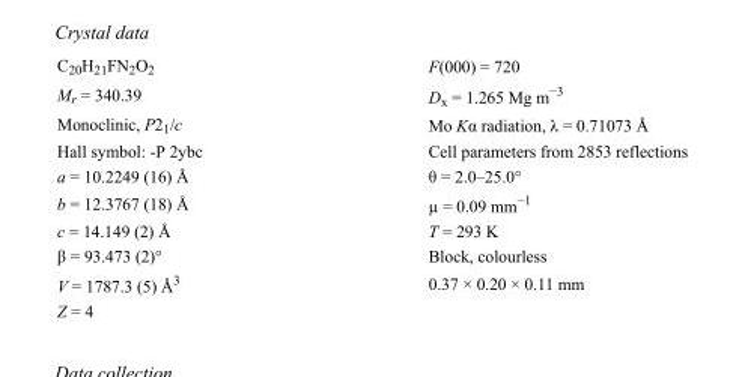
<table><tbody><tr><td>C<sub>20</sub>H<sub>21</sub>FN<sub>2</sub>O<sub>2</sub></td><td>F(000) = 720</td></tr><tr><td>M<sub>r</sub> = 340.39</td><td>D<sub>x</sub> = 1.265 Mg m<sup>−3</sup></td></tr><tr><td>Monoclinic, P2<sub>1</sub>/c</td><td>Mo Kα radiation, λ = 0.71073 Å</td></tr><tr><td>Hall symbol: -P 2ybc</td><td>Cell parameters from 2853 reflections</td></tr><tr><td>a = 10.2249 (16) Å</td><td>θ = 2.0–25.0°</td></tr><tr><td>b = 12.3767 (18) Å</td><td>µ = 0.09 mm<sup>−1</sup></td></tr><tr><td>c = 14.149 (2) Å</td><td>T = 293 K</td></tr><tr><td>β = 93.473 (2)°</td><td>Block, colourless</td></tr><tr><td>V = 1787.3 (5) Å<sup>3</sup></td><td>0.37 × 0.20 × 0.11 mm</td></tr><tr><td>Z = 4</td><td></td></tr></tbody></table>